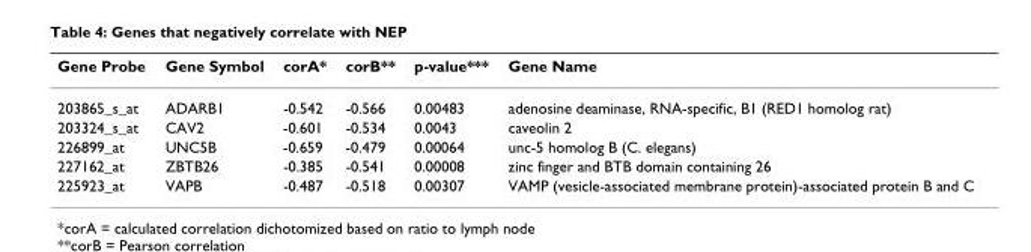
<table><thead><tr><td>Gene Probe</td><td>Gene Symbol</td><td>corA*</td><td>corB**</td><td>p-value***</td><td>Gene Name</td></tr></thead><tbody><tr><td>203865_s_at</td><td>ADARB1</td><td>-0.542</td><td>-0.566</td><td>0.00483</td><td>adenosine deaminase, RNA-specific, B1 (RED1 homolog rat)</td></tr><tr><td>203324_s_at</td><td>CAV2</td><td>-0.601</td><td>-0.534</td><td>0.0043</td><td>caveolin 2</td></tr><tr><td>226899_at</td><td>UNC5B</td><td>-0.659</td><td>-0.479</td><td>0.00064</td><td>unc-5 homolog B (C. elegans)</td></tr><tr><td>227162_at</td><td>ZBTB26</td><td>-0.385</td><td>-0.541</td><td>0.00008</td><td>zinc finger and BTB domain containing 26</td></tr><tr><td>225923_at</td><td>VAPB</td><td>-0.487</td><td>-0.518</td><td>0.00307</td><td>VAMP (vesicle-associated membrane protein)-associated protein B and C</td></tr></tbody></table>